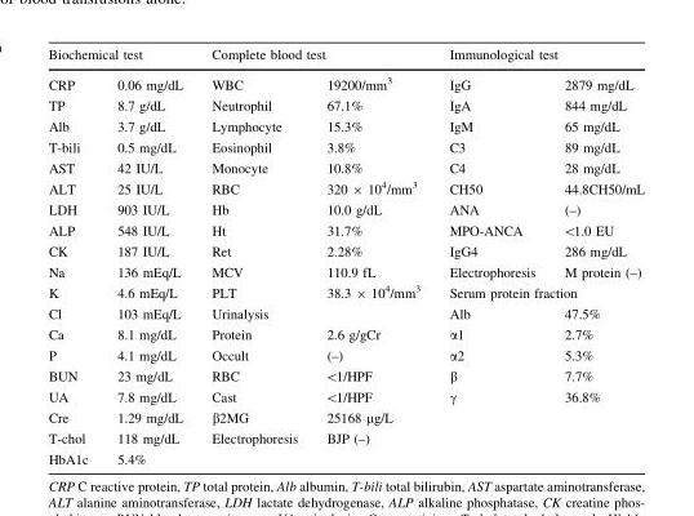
<table><thead><tr><td colspan="2">Biochemical test</td><td colspan="2">Complete blood test</td><td colspan="2">Immunological test</td></tr><tr><td>CRP</td><td>0.06 mg/dL</td><td>WBC</td><td>19200/mm<sup>3</sup></td><td>IgG</td><td>2879 mg/dL</td></tr></thead><tbody><tr><td>TP</td><td>8.7 g/dL</td><td>Neutrophil</td><td>67.1%</td><td>IgA</td><td>844 mg/dL</td></tr><tr><td>Alb</td><td>3.7 g/dL</td><td>Lymphocyte</td><td>15.3%</td><td>IgM</td><td>65 mg/dL</td></tr><tr><td>T-bili</td><td>0.5 mg/dL</td><td>Eosinophil</td><td>3.8%</td><td>C3</td><td>89 mg/dL</td></tr><tr><td>AST</td><td>42 IU/L</td><td>Monocyte</td><td>10.8%</td><td>C4</td><td>28 mg/dL</td></tr><tr><td>ALT</td><td>25 IU/L</td><td>RBC</td><td>320 × 10<sup>4</sup>/mm<sup>3</sup></td><td>CH50</td><td>44.8CH50/mL</td></tr><tr><td>LDH</td><td>903 IU/L</td><td>Hb</td><td>10.0 g/dL</td><td>ANA</td><td>(–)</td></tr><tr><td>ALP</td><td>548 IU/L</td><td>Ht</td><td>31.7%</td><td>MPO-ANCA</td><td>&lt;1.0 EU</td></tr><tr><td>CK</td><td>187 IU/L</td><td>Ret</td><td>2.28%</td><td>IgG4</td><td>286 mg/dL</td></tr><tr><td>Na</td><td>136 mEq/L</td><td>MCV</td><td>110.9 fL</td><td>Electrophoresis</td><td>M protein (–)</td></tr><tr><td>K</td><td>4.6 mEq/L</td><td>PLT</td><td>38.3 × 10<sup>4</sup>/mm<sup>3</sup></td><td colspan="2">Serum protein fraction</td></tr><tr><td>Cl</td><td>103 mEq/L</td><td colspan="2">Urinalysis</td><td>Alb</td><td>47.5%</td></tr><tr><td>Ca</td><td>8.1 mg/dL</td><td>Protein</td><td>2.6 g/gCr</td><td>α1</td><td>2.7%</td></tr><tr><td>P</td><td>4.1 mg/dL</td><td>Occult</td><td>(–)</td><td>α2</td><td>5.3%</td></tr><tr><td>BUN</td><td>23 mg/dL</td><td>RBC</td><td>&lt;1/HPF</td><td>β</td><td>7.7%</td></tr><tr><td>UA</td><td>7.8 mg/dL</td><td>Cast</td><td>&lt;1/HPF</td><td>γ</td><td>36.8%</td></tr><tr><td>Cre</td><td>1.29 mg/dL</td><td>β2MG</td><td>25168 μg/L</td><td></td><td></td></tr><tr><td>T-chol</td><td>118 mg/dL</td><td>Electrophoresis</td><td>BJP (–)</td><td></td><td></td></tr><tr><td>HbA1c</td><td>5.4%</td><td></td><td></td><td></td><td></td></tr></tbody></table>